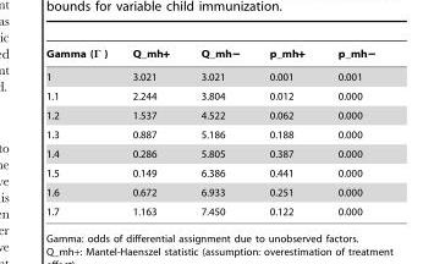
<table><thead><tr><td>Gamma (Γ )</td><td>Q_mh+</td><td>Q_mh−</td><td>p_mh+</td><td>p_mh−</td></tr></thead><tbody><tr><td>1</td><td>3.021</td><td>3.021</td><td>0.001</td><td>0.001</td></tr><tr><td>1.1</td><td>2.244</td><td>3.804</td><td>0.012</td><td>0.000</td></tr><tr><td>1.2</td><td>1.537</td><td>4.522</td><td>0.062</td><td>0.000</td></tr><tr><td>1.3</td><td>0.887</td><td>5.186</td><td>0.188</td><td>0.000</td></tr><tr><td>1.4</td><td>0.286</td><td>5.805</td><td>0.387</td><td>0.000</td></tr><tr><td>1.5</td><td>0.149</td><td>6.386</td><td>0.441</td><td>0.000</td></tr><tr><td>1.6</td><td>0.672</td><td>6.933</td><td>0.251</td><td>0.000</td></tr><tr><td>1.7</td><td>1.163</td><td>7.450</td><td>0.122</td><td>0.000</td></tr></tbody></table>